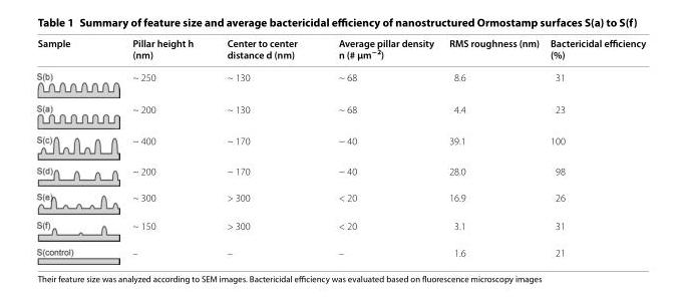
<table><thead><tr><td>Sample</td><td>Pillar height h (nm)</td><td>Center to center distance d (nm)</td><td>Average pillar density n (# μm<sup>−2</sup>)</td><td>RMS roughness (nm)</td><td>Bactericidal efficiency (%)</td></tr></thead><tbody><tr><td></td><td>~ 250</td><td>~ 130</td><td>~ 68</td><td>8.6</td><td>31</td></tr><tr><td></td><td>~ 200</td><td>~ 130</td><td>~ 68</td><td>4.4</td><td>23</td></tr><tr><td></td><td>~ 400</td><td>~ 170</td><td>~ 40</td><td>39.1</td><td>100</td></tr><tr><td></td><td>~ 200</td><td>~ 170</td><td>~ 40</td><td>28.0</td><td>98</td></tr><tr><td></td><td>~ 300</td><td>&gt; 300</td><td>&lt; 20</td><td>16.9</td><td>26</td></tr><tr><td></td><td>~ 150</td><td>&gt; 300</td><td>&lt; 20</td><td>3.1</td><td>31</td></tr><tr><td></td><td>–</td><td>–</td><td>–</td><td>1.6</td><td>21</td></tr></tbody></table>